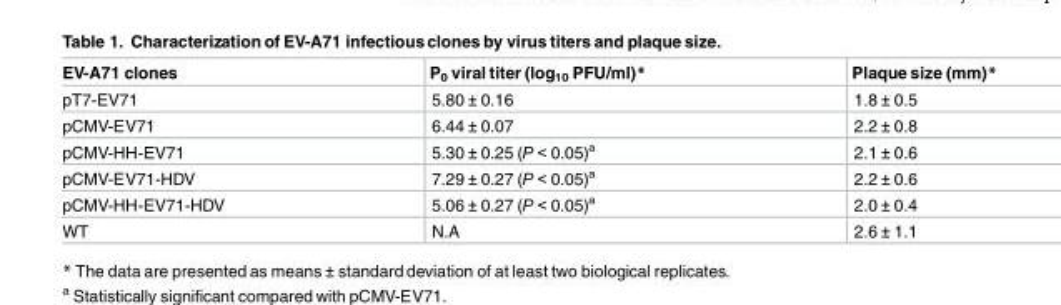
<table><thead><tr><td>EV-A71 clones</td><td>P<sub>0</sub> viral titer (log<sub>10</sub> PFU/ml)*</td><td>Plaque size (mm)*</td></tr></thead><tbody><tr><td>pT7-EV71</td><td>5.80 ± 0.16</td><td>1.8 ± 0.5</td></tr><tr><td>pCMV-EV71</td><td>6.44 ± 0.07</td><td>2.2 ± 0.8</td></tr><tr><td>pCMV-HH-EV71</td><td>5.30 ± 0.25 (P &lt; 0.05)<sup>a</sup></td><td>2.1 ± 0.6</td></tr><tr><td>pCMV-EV71-HDV</td><td>7.29 ± 0.27 (P &lt; 0.05)<sup>a</sup></td><td>2.2 ± 0.6</td></tr><tr><td>pCMV-HH-EV71-HDV</td><td>5.06 ± 0.27 (P &lt; 0.05)<sup>a</sup></td><td>2.0 ± 0.4</td></tr><tr><td>WT</td><td>N.A</td><td>2.6 ± 1.1</td></tr></tbody></table>